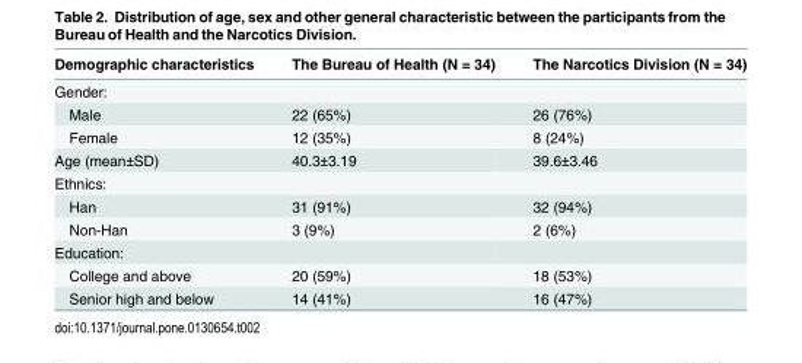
<table><thead><tr><td>Demographic characteristics</td><td>The Bureau of Health (N = 34)</td><td>The Narcotics Division (N = 34)</td></tr></thead><tbody><tr><td colspan="3">Gender:</td></tr><tr><td>Male</td><td>22 (65%)</td><td>26 (76%)</td></tr><tr><td>Female</td><td>12 (35%)</td><td>8 (24%)</td></tr><tr><td>Age (mean±SD)</td><td>40.3±3.19</td><td>39.6±3.46</td></tr><tr><td colspan="3">Ethnics:</td></tr><tr><td>Han</td><td>31 (91%)</td><td>32 (94%)</td></tr><tr><td>Non-Han</td><td>3 (9%)</td><td>2 (6%)</td></tr><tr><td colspan="3">Education:</td></tr><tr><td>College and above</td><td>20 (59%)</td><td>18 (53%)</td></tr><tr><td>Senior high and below</td><td>14 (41%)</td><td>16 (47%)</td></tr></tbody></table>